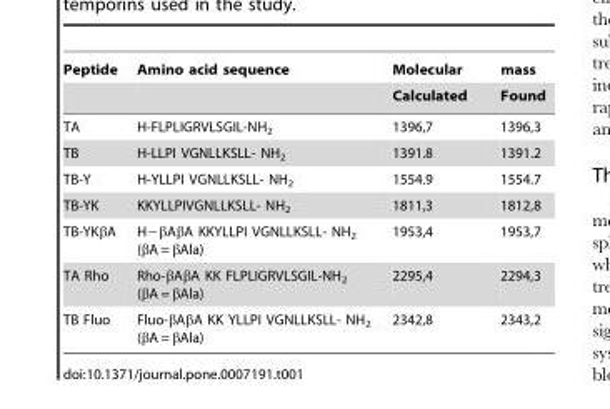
<table><thead><tr><td rowspan="2">Peptide</td><td rowspan="2">Amino acid sequence</td><td rowspan="2">Molecular Calculated</td><td rowspan="2">mass Found</td></tr><tr></tr></thead><tbody><tr><td>TA</td><td>H-FLPLIGRVLSGIL-NH<sub>2</sub></td><td>1396,7</td><td>1396,3</td></tr><tr><td>TB</td><td>H-LLPI VGNLLKSLL- NH<sub>2</sub></td><td>1391.8</td><td>1391.2</td></tr><tr><td>TB-Y</td><td>H-YLLPI VGNLLKSLL- NH<sub>2</sub></td><td>1554.9</td><td>1554.7</td></tr><tr><td>TB-YK</td><td>KKYLLPIVGNLLKSLL- NH<sub>2</sub></td><td>1811,3</td><td>1812,8</td></tr><tr><td>TB-YKβA</td><td>H−βAβA KKYLLPI VGNLLKSLL- NH<sub>2</sub> (βA = βAla)</td><td>1953,4</td><td>1953,7</td></tr><tr><td>TA Rho</td><td>Rho-βAβA KK FLPLIGRVLSGIL-NH<sub>2</sub> (βA = βAla)</td><td>2295,4</td><td>2294,3</td></tr><tr><td>TB Fluo</td><td>Fluo-βAβA KK YLLPI VGNLLKSLL- NH<sub>2</sub> (βA = βAla)</td><td>2342,8</td><td>2343,2</td></tr></tbody></table>